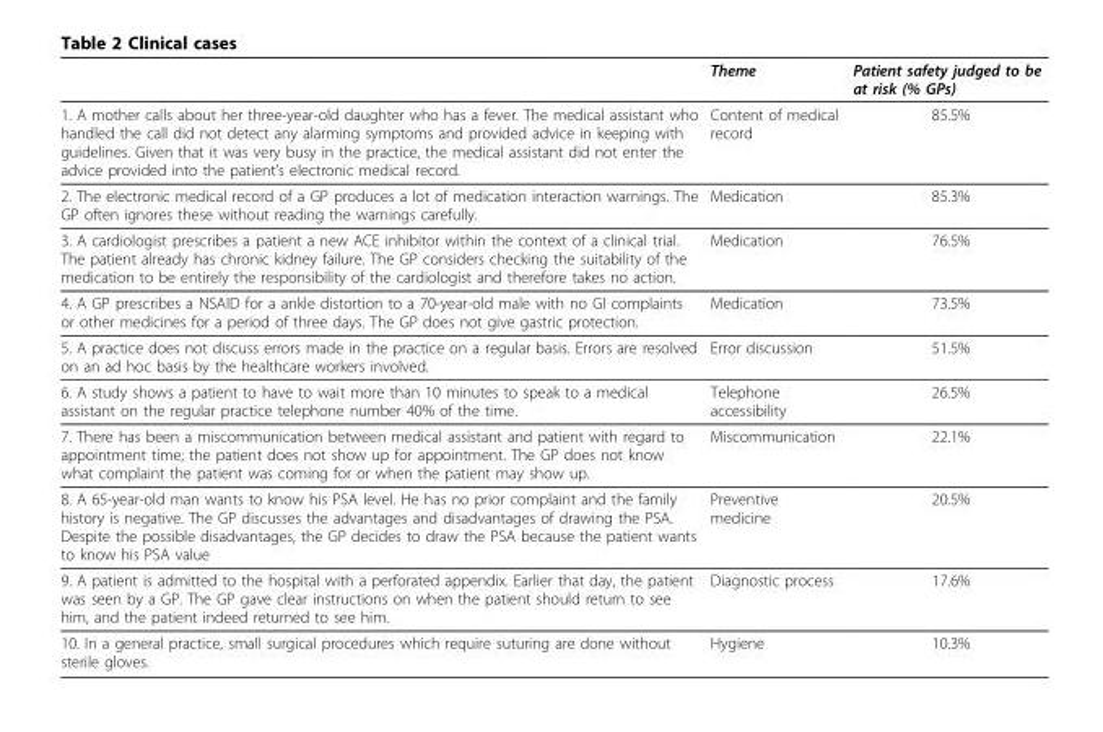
<table><thead><tr><td></td><td>Theme</td><td>Patient safety judged to be at risk (% GPs)</td></tr></thead><tbody><tr><td>1. A mother calls about her three-year-old daughter who has a fever. The medical assistant who handled the call did not detect any alarming symptoms and provided advice in keeping with guidelines. Given that it was very busy in the practice, the medical assistant did not enter the advice provided into the patient’s electronic medical record.</td><td>Content of medical record</td><td>85.5%</td></tr><tr><td>2. The electronic medical record of a GP produces a lot of medication interaction warnings. The GP often ignores these without reading the warnings carefully.</td><td>Medication</td><td>85.3%</td></tr><tr><td>3. A cardiologist prescribes a patient a new ACE inhibitor within the context of a clinical trial. The patient already has chronic kidney failure. The GP considers checking the suitability of the medication to be entirely the responsibility of the cardiologist and therefore takes no action.</td><td>Medication</td><td>76.5%</td></tr><tr><td>4. A GP prescribes a NSAID for a ankle distortion to a 70-year-old male with no GI complaints or other medicines for a period of three days. The GP does not give gastric protection.</td><td>Medication</td><td>73.5%</td></tr><tr><td>5. A practice does not discuss errors made in the practice on a regular basis. Errors are resolved on an ad hoc basis by the healthcare workers involved.</td><td>Error discussion</td><td>51.5%</td></tr><tr><td>6. A study shows a patient to have to wait more than 10 minutes to speak to a medical assistant on the regular practice telephone number 40% of the time.</td><td>Telephone accessibility</td><td>26.5%</td></tr><tr><td>7. There has been a miscommunication between medical assistant and patient with regard to appointment time; the patient does not show up for appointment. The GP does not know what complaint the patient was coming for or when the patient may show up.</td><td>Miscommunication</td><td>22.1%</td></tr><tr><td>8. A 65-year-old man wants to know his PSA level. He has no prior complaint and the family history is negative. The GP discusses the advantages and disadvantages of drawing the PSA. Despite the possible disadvantages, the GP decides to draw the PSA because the patient wants to know his PSA value</td><td>Preventive medicine</td><td>20.5%</td></tr><tr><td>9. A patient is admitted to the hospital with a perforated appendix. Earlier that day, the patient was seen by a GP. The GP gave clear instructions on when the patient should return to see him, and the patient indeed returned to see him.</td><td>Diagnostic process</td><td>17.6%</td></tr><tr><td>10. In a general practice, small surgical procedures which require suturing are done without sterile gloves.</td><td>Hygiene</td><td>10.3%</td></tr></tbody></table>